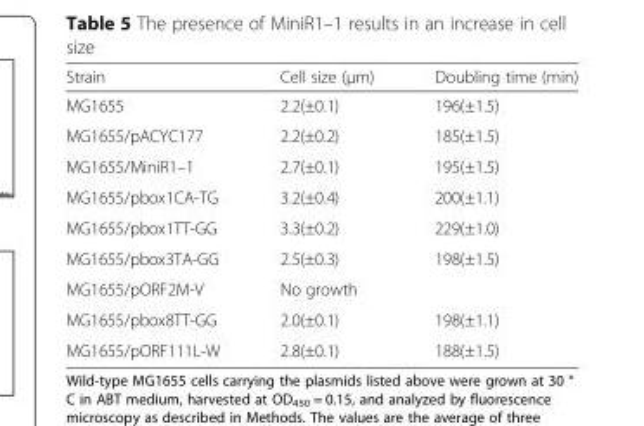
<table><thead><tr><td>Strain</td><td>Cell size (μm)</td><td>Doubling time (min)</td></tr></thead><tbody><tr><td>MG1655</td><td>2.2(±0.1)</td><td>196(±1.5)</td></tr><tr><td>MG1655/pACYC177</td><td>2.2(±0.2)</td><td>185(±1.5)</td></tr><tr><td>MG1655/MiniR1–1</td><td>2.7(±0.1)</td><td>195(±1.5)</td></tr><tr><td>MG1655/pbox1CA-TG</td><td>3.2(±0.4)</td><td>200(±1.1)</td></tr><tr><td>MG1655/pbox1TT-GG</td><td>3.3(±0.2)</td><td>229(±1.0)</td></tr><tr><td>MG1655/pbox3TA-GG</td><td>2.5(±0.3)</td><td>198(±1.5)</td></tr><tr><td>MG1655/pORF2M-V</td><td colspan="2">No growth</td></tr><tr><td>MG1655/pbox8TT-GG</td><td>2.0(±0.1)</td><td>198(±1.1)</td></tr><tr><td>MG1655/pORF111L-W</td><td>2.8(±0.1)</td><td>188(±1.5)</td></tr></tbody></table>